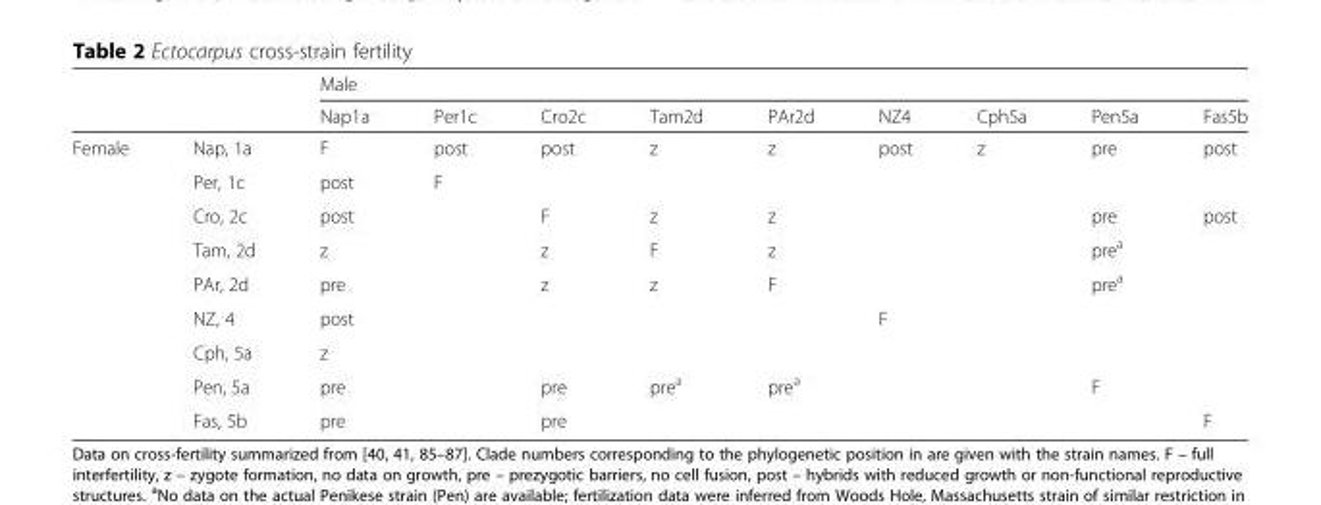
<table><thead><tr><td rowspan="2"></td><td rowspan="2"></td><td colspan="9">Male</td></tr><tr><td>Nap1a</td><td>Per1c</td><td>Cro2c</td><td>Tam2d</td><td>PAr2d</td><td>NZ4</td><td>Cph5a</td><td>Pen5a</td><td>Fas5b</td></tr></thead><tbody><tr><td rowspan="9">Female</td><td>Nap, 1a</td><td>F</td><td>post</td><td>post</td><td>z</td><td>z</td><td>post</td><td>z</td><td>pre</td><td>post</td></tr><tr><td>Per, 1c</td><td>post</td><td>F</td><td></td><td></td><td></td><td></td><td></td><td></td><td></td></tr><tr><td>Cro, 2c</td><td>post</td><td></td><td>F</td><td>z</td><td>z</td><td></td><td></td><td>pre</td><td>post</td></tr><tr><td>Tam, 2d</td><td>z</td><td></td><td>z</td><td>F</td><td>z</td><td></td><td></td><td>pre<sup>a</sup></td><td></td></tr><tr><td>PAr, 2d</td><td>pre</td><td></td><td>z</td><td>z</td><td>F</td><td></td><td></td><td>pre<sup>a</sup></td><td></td></tr><tr><td>NZ, 4</td><td>post</td><td></td><td></td><td></td><td></td><td>F</td><td></td><td></td><td></td></tr><tr><td>Cph, 5a</td><td>z</td><td></td><td></td><td></td><td></td><td></td><td></td><td></td><td></td></tr><tr><td>Pen, 5a</td><td>pre</td><td></td><td>pre</td><td>pre<sup>a</sup></td><td>pre<sup>a</sup></td><td></td><td></td><td>F</td><td></td></tr><tr><td>Fas, 5b</td><td>pre</td><td></td><td>pre</td><td></td><td></td><td></td><td></td><td></td><td>F</td></tr></tbody></table>